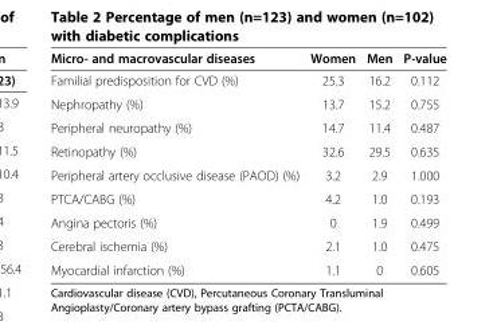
<table><thead><tr><td>Micro- and macrovascular diseases</td><td>Women</td><td>Men</td><td>P-value</td></tr></thead><tbody><tr><td>Familial predisposition for CVD (%)</td><td>25.3</td><td>16.2</td><td>0.112</td></tr><tr><td>Nephropathy (%)</td><td>13.7</td><td>15.2</td><td>0.755</td></tr><tr><td>Peripheral neuropathy (%)</td><td>14.7</td><td>11.4</td><td>0.487</td></tr><tr><td>Retinopathy (%)</td><td>32.6</td><td>29.5</td><td>0.635</td></tr><tr><td>Peripheral artery occlusive disease (PAOD) (%)</td><td>3.2</td><td>2.9</td><td>1.000</td></tr><tr><td>PTCA/CABG (%)</td><td>4.2</td><td>1.0</td><td>0.193</td></tr><tr><td>Angina pectoris (%)</td><td>0</td><td>1.9</td><td>0.499</td></tr><tr><td>Cerebral ischemia (%)</td><td>2.1</td><td>1.0</td><td>0.475</td></tr><tr><td>Myocardial infarction (%)</td><td>1.1</td><td>0</td><td>0.605</td></tr></tbody></table>